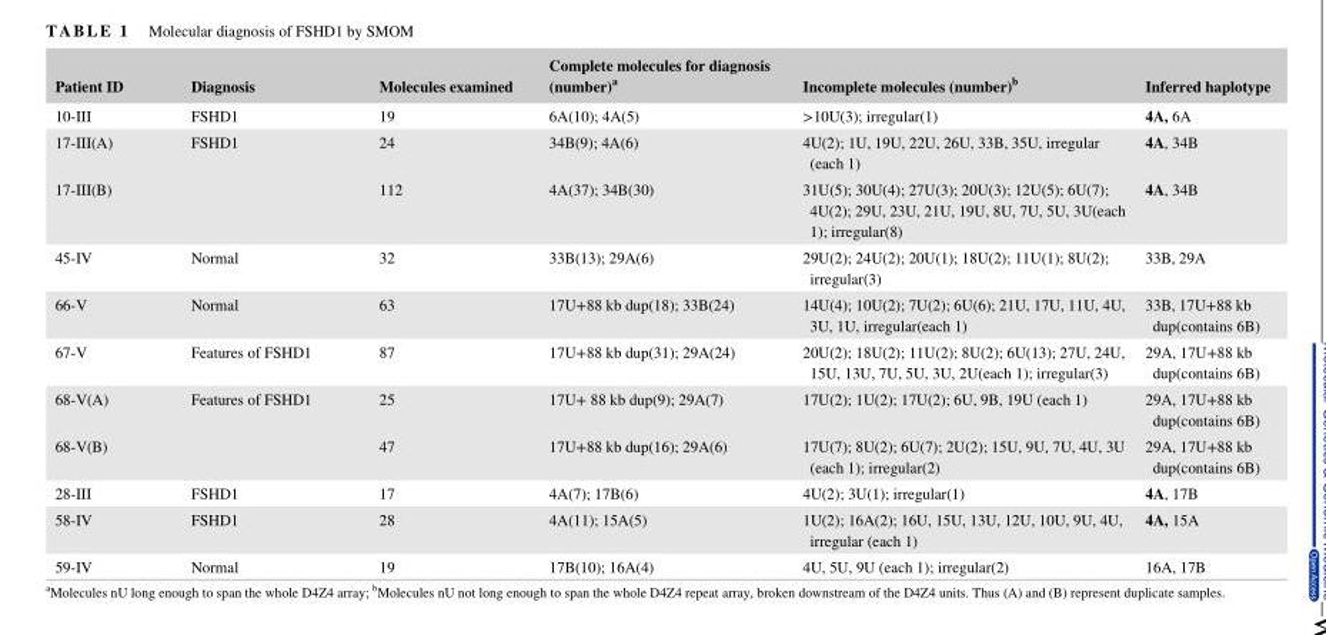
<table><thead><tr><td>Patient ID</td><td>Diagnosis</td><td>Molecules examined</td><td>Complete molecules for diagnosis (number)<sup>a</sup></td><td>Incomplete molecules (number)<sup>b</sup></td><td>Inferred haplotype</td></tr></thead><tbody><tr><td>10‐III</td><td>FSHD1</td><td>19</td><td>6A(10); 4A(5)</td><td>&gt;10U(3); irregular(1)</td><td>4A, 6A</td></tr><tr><td>17‐III(A)</td><td rowspan="2">FSHD1</td><td>24</td><td>34B(9); 4A(6)</td><td>4U(2); 1U, 19U, 22U, 26U, 33B, 35U, irregular (each 1)</td><td>4A, 34B</td></tr><tr><td>17‐III(B)</td><td>112</td><td>4A(37); 34B(30)</td><td>31U(5); 30U(4); 27U(3); 20U(3); 12U(5); 6U(7); 4U(2); 29U, 23U, 21U, 19U, 8U, 7U, 5U, 3U(each 1); irregular(8)</td><td>4A, 34B</td></tr><tr><td>45‐IV</td><td>Normal</td><td>32</td><td>33B(13); 29A(6)</td><td>29U(2); 24U(2); 20U(1); 18U(2); 11U(1); 8U(2); irregular(3)</td><td>33B, 29A</td></tr><tr><td>66‐V</td><td>Normal</td><td>63</td><td>17U+88 kb dup(18); 33B(24)</td><td>14U(4); 10U(2); 7U(2); 6U(6); 21U, 17U, 11U, 4U, 3U, 1U, irregular(each 1)</td><td>33B, 17U+88 kb dup(contains 6B)</td></tr><tr><td>67‐V</td><td>Features of FSHD1</td><td>87</td><td>17U+88 kb dup(31); 29A(24)</td><td>20U(2); 18U(2); 11U(2); 8U(2); 6U(13); 27U, 24U, 15U, 13U, 7U, 5U, 3U, 2U(each 1); irregular(3)</td><td>29A, 17U+88 kb dup(contains 6B)</td></tr><tr><td>68‐V(A)</td><td rowspan="2">Features of FSHD1</td><td>25</td><td>17U+ 88 kb dup(9); 29A(7)</td><td>17U(2); 1U(2); 17U(2); 6U, 9B, 19U (each 1)</td><td>29A, 17U+88 kb dup(contains 6B)</td></tr><tr><td>68‐V(B)</td><td>47</td><td>17U+88 kb dup(16); 29A(6)</td><td>17U(7); 8U(2); 6U(7); 2U(2); 15U, 9U, 7U, 4U, 3U (each 1); irregular(2)</td><td>29A, 17U+88 kb dup(contains 6B)</td></tr><tr><td>28‐III</td><td>FSHD1</td><td>17</td><td>4A(7); 17B(6)</td><td>4U(2); 3U(1); irregular(1)</td><td>4A, 17B</td></tr><tr><td>58‐IV</td><td>FSHD1</td><td>28</td><td>4A(11); 15A(5)</td><td>1U(2); 16A(2); 16U, 15U, 13U, 12U, 10U, 9U, 4U, irregular (each 1)</td><td>4A, 15A</td></tr><tr><td>59‐IV</td><td>Normal</td><td>19</td><td>17B(10); 16A(4)</td><td>4U, 5U, 9U (each 1); irregular(2)</td><td>16A, 17B</td></tr></tbody></table>